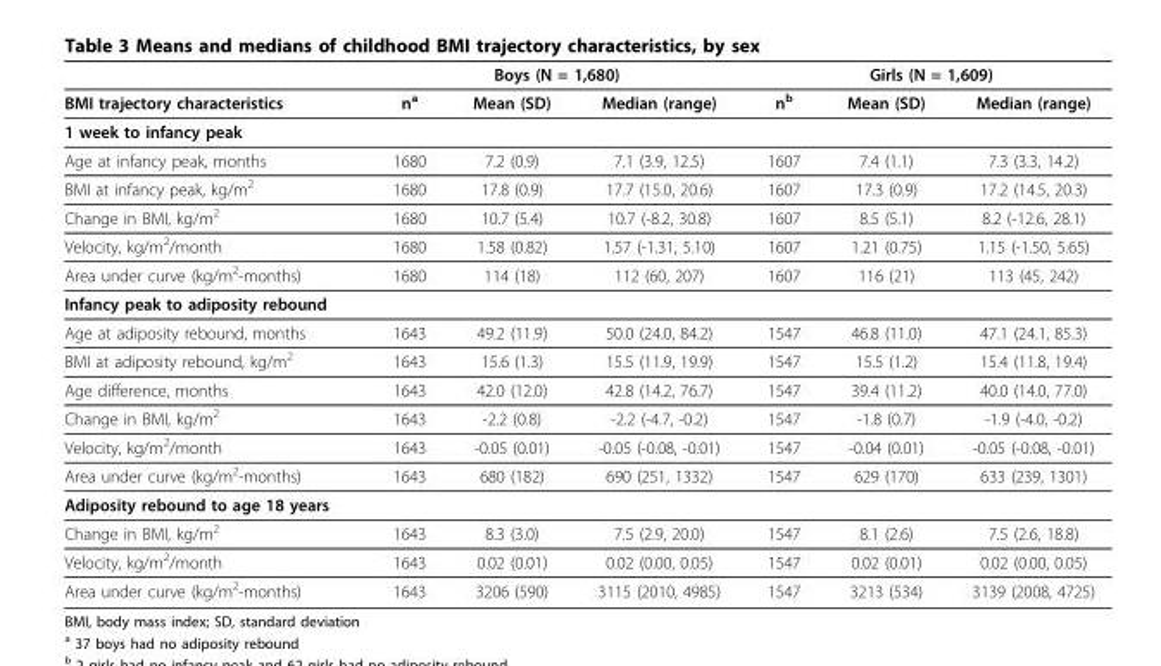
<table><thead><tr><td rowspan="2">BMI trajectory characteristics</td><td colspan="3">Boys (N = 1,680)</td><td colspan="3">Girls (N = 1,609)</td></tr><tr><td>n<sup>a</sup></td><td>Mean (SD)</td><td>Median (range)</td><td>n<sup>b</sup></td><td>Mean (SD)</td><td>Median (range)</td></tr></thead><tbody><tr><td colspan="7">1 week to infancy peak</td></tr><tr><td>Age at infancy peak, months</td><td>1680</td><td>7.2 (0.9)</td><td>7.1 (3.9, 12.5)</td><td>1607</td><td>7.4 (1.1)</td><td>7.3 (3.3, 14.2)</td></tr><tr><td>BMI at infancy peak, kg/m<sup>2</sup></td><td>1680</td><td>17.8 (0.9)</td><td>17.7 (15.0, 20.6)</td><td>1607</td><td>17.3 (0.9)</td><td>17.2 (14.5, 20.3)</td></tr><tr><td>Change in BMI, kg/m<sup>2</sup></td><td>1680</td><td>10.7 (5.4)</td><td>10.7 (-8.2, 30.8)</td><td>1607</td><td>8.5 (5.1)</td><td>8.2 (-12.6, 28.1)</td></tr><tr><td>Velocity, kg/m<sup>2</sup>/month</td><td>1680</td><td>1.58 (0.82)</td><td>1.57 (-1.31, 5.10)</td><td>1607</td><td>1.21 (0.75)</td><td>1.15 (-1.50, 5.65)</td></tr><tr><td>Area under curve (kg/m<sup>2</sup>-months)</td><td>1680</td><td>114 (18)</td><td>112 (60, 207)</td><td>1607</td><td>116 (21)</td><td>113 (45, 242)</td></tr><tr><td colspan="7">Infancy peak to adiposity rebound</td></tr><tr><td>Age at adiposity rebound, months</td><td>1643</td><td>49.2 (11.9)</td><td>50.0 (24.0, 84.2)</td><td>1547</td><td>46.8 (11.0)</td><td>47.1 (24.1, 85.3)</td></tr><tr><td>BMI at adiposity rebound, kg/m<sup>2</sup></td><td>1643</td><td>15.6 (1.3)</td><td>15.5 (11.9, 19.9)</td><td>1547</td><td>15.5 (1.2)</td><td>15.4 (11.8, 19.4)</td></tr><tr><td>Age difference, months</td><td>1643</td><td>42.0 (12.0)</td><td>42.8 (14.2, 76.7)</td><td>1547</td><td>39.4 (11.2)</td><td>40.0 (14.0, 77.0)</td></tr><tr><td>Change in BMI, kg/m<sup>2</sup></td><td>1643</td><td>-2.2 (0.8)</td><td>-2.2 (-4.7, -0.2)</td><td>1547</td><td>-1.8 (0.7)</td><td>-1.9 (-4.0, -0.2)</td></tr><tr><td>Velocity, kg/m<sup>2</sup>/month</td><td>1643</td><td>-0.05 (0.01)</td><td>-0.05 (-0.08, -0.01)</td><td>1547</td><td>-0.04 (0.01)</td><td>-0.05 (-0.08, -0.01)</td></tr><tr><td>Area under curve (kg/m<sup>2</sup>-months)</td><td>1643</td><td>680 (182)</td><td>690 (251, 1332)</td><td>1547</td><td>629 (170)</td><td>633 (239, 1301)</td></tr><tr><td colspan="7">Adiposity rebound to age 18 years</td></tr><tr><td>Change in BMI, kg/m<sup>2</sup></td><td>1643</td><td>8.3 (3.0)</td><td>7.5 (2.9, 20.0)</td><td>1547</td><td>8.1 (2.6)</td><td>7.5 (2.6, 18.8)</td></tr><tr><td>Velocity, kg/m<sup>2</sup>/month</td><td>1643</td><td>0.02 (0.01)</td><td>0.02 (0.00, 0.05)</td><td>1547</td><td>0.02 (0.01)</td><td>0.02 (0.00, 0.05)</td></tr><tr><td>Area under curve (kg/m<sup>2</sup>-months)</td><td>1643</td><td>3206 (590)</td><td>3115 (2010, 4985)</td><td>1547</td><td>3213 (534)</td><td>3139 (2008, 4725)</td></tr></tbody></table>